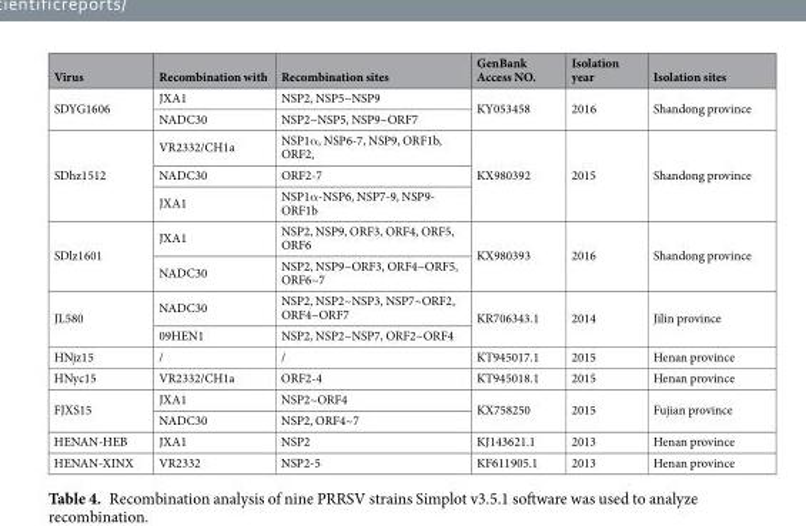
<table><thead><tr><td>Virus</td><td>Recombination with</td><td>Recombination sites</td><td>GenBank Access NO.</td><td>Isolation year</td><td>Isolation sites</td></tr></thead><tbody><tr><td rowspan="2">SDYG1606</td><td>JXA1</td><td>NSP2, NSP5~NSP9</td><td rowspan="2">KY053458</td><td rowspan="2">2016</td><td rowspan="2">Shandong province</td></tr><tr><td>NADC30</td><td>NSP2~NSP5, NSP9~ORF7</td></tr><tr><td rowspan="3">SDhz1512</td><td>VR2332/CH1a</td><td>NSP1α, NSP6-7, NSP9, ORF1b, ORF2,</td><td rowspan="3">KX980392</td><td rowspan="3">2015</td><td rowspan="3">Shandong province</td></tr><tr><td>NADC30</td><td>ORF2-7</td></tr><tr><td>JXA1</td><td>NSP1α-NSP6, NSP7-9, NSP9- ORF1b</td></tr><tr><td rowspan="2">SDlz1601</td><td>JXA1</td><td>NSP2, NSP9, ORF3, ORF4, ORF5, ORF6</td><td rowspan="2">KX980393</td><td rowspan="2">2016</td><td rowspan="2">Shandong province</td></tr><tr><td>NADC30</td><td>NSP2, NSP9~ORF3, ORF4~ORF5, ORF6~7</td></tr><tr><td rowspan="2">JL580</td><td>NADC30</td><td>NSP2, NSP2~NSP3, NSP7~ORF2, ORF4~ORF7</td><td rowspan="2">KR706343.1</td><td rowspan="2">2014</td><td rowspan="2">Jilin province</td></tr><tr><td>09HEN1</td><td>NSP2, NSP2~NSP7, ORF2~ORF4</td></tr><tr><td>HNjz15</td><td>/</td><td>/</td><td>KT945017.1</td><td>2015</td><td>Henan province</td></tr><tr><td>HNyc15</td><td>VR2332/CH1a</td><td>ORF2-4</td><td>KT945018.1</td><td>2015</td><td>Henan province</td></tr><tr><td rowspan="2">FJXS15</td><td>JXA1</td><td>NSP2~ORF4</td><td rowspan="2">KX758250</td><td rowspan="2">2015</td><td rowspan="2">Fujian province</td></tr><tr><td>NADC30</td><td>NSP2, ORF4~7</td></tr><tr><td>HENAN-HEB</td><td>JXA1</td><td>NSP2</td><td>KJ143621.1</td><td>2013</td><td>Henan province</td></tr><tr><td>HENAN-XINX</td><td>VR2332</td><td>NSP2-5</td><td>KF611905.1</td><td>2013</td><td>Henan province</td></tr></tbody></table>